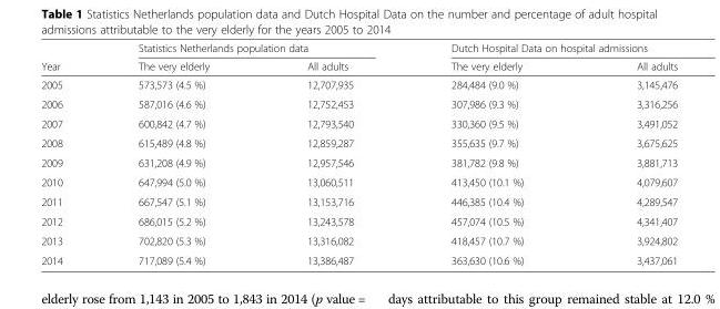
<table><thead><tr><td rowspan="2">Year</td><td colspan="2">Statistics Netherlands population data</td><td colspan="2">Dutch Hospital Data on hospital admissions</td></tr><tr><td>The very elderly</td><td>All adults</td><td>The very elderly</td><td>All adults</td></tr></thead><tbody><tr><td>2005</td><td>573,573 (4.5 %)</td><td>12,707,935</td><td>284,484 (9.0 %)</td><td>3,145,476</td></tr><tr><td>2006</td><td>587,016 (4.6 %)</td><td>12,752,453</td><td>307,986 (9.3 %)</td><td>3,316,256</td></tr><tr><td>2007</td><td>600,842 (4.7 %)</td><td>12,793,540</td><td>330,360 (9.5 %)</td><td>3,491,052</td></tr><tr><td>2008</td><td>615,489 (4.8 %)</td><td>12,859,287</td><td>355,635 (9.7 %)</td><td>3,675,625</td></tr><tr><td>2009</td><td>631,208 (4.9 %)</td><td>12,957,546</td><td>381,782 (9.8 %)</td><td>3,881,713</td></tr><tr><td>2010</td><td>647,994 (5.0 %)</td><td>13,060,511</td><td>413,450 (10.1 %)</td><td>4,079,607</td></tr><tr><td>2011</td><td>667,547 (5.1 %)</td><td>13,153,716</td><td>446,385 (10.4 %)</td><td>4,289,547</td></tr><tr><td>2012</td><td>686,015 (5.2 %)</td><td>13,243,578</td><td>457,074 (10.5 %)</td><td>4,341,407</td></tr><tr><td>2013</td><td>702,820 (5.3 %)</td><td>13,316,082</td><td>418,457 (10.7 %)</td><td>3,924,802</td></tr><tr><td>2014</td><td>717,089 (5.4 %)</td><td>13,386,487</td><td>363,630 (10.6 %)</td><td>3,437,061</td></tr></tbody></table>